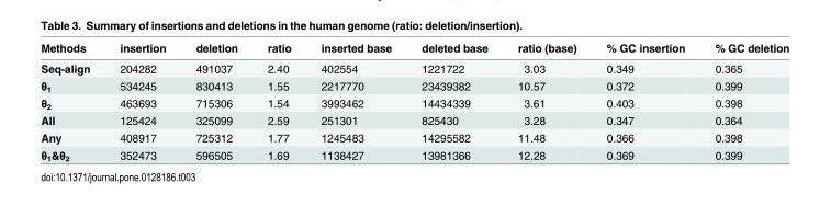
<table><thead><tr><td>Methods</td><td>insertion</td><td>deletion</td><td>ratio</td><td>inserted base</td><td>deleted base</td><td>ratio (base)</td><td>% GC insertion</td><td>% GC deletion</td></tr></thead><tbody><tr><td>Seq-align</td><td>204282</td><td>491037</td><td>2.40</td><td>402554</td><td>1221722</td><td>3.03</td><td>0.349</td><td>0.365</td></tr><tr><td>θ<sub>1</sub></td><td>534245</td><td>830413</td><td>1.55</td><td>2217770</td><td>23439382</td><td>10.57</td><td>0.372</td><td>0.399</td></tr><tr><td>θ<sub>2</sub></td><td>463693</td><td>715306</td><td>1.54</td><td>3993462</td><td>14434339</td><td>3.61</td><td>0.403</td><td>0.398</td></tr><tr><td>All</td><td>125424</td><td>325099</td><td>2.59</td><td>251301</td><td>825430</td><td>3.28</td><td>0.347</td><td>0.364</td></tr><tr><td>Any</td><td>408917</td><td>725312</td><td>1.77</td><td>1245483</td><td>14295582</td><td>11.48</td><td>0.366</td><td>0.398</td></tr><tr><td>θ<sub>1</sub>&amp;θ<sub>2</sub></td><td>352473</td><td>596505</td><td>1.69</td><td>1138427</td><td>13981366</td><td>12.28</td><td>0.369</td><td>0.399</td></tr></tbody></table>